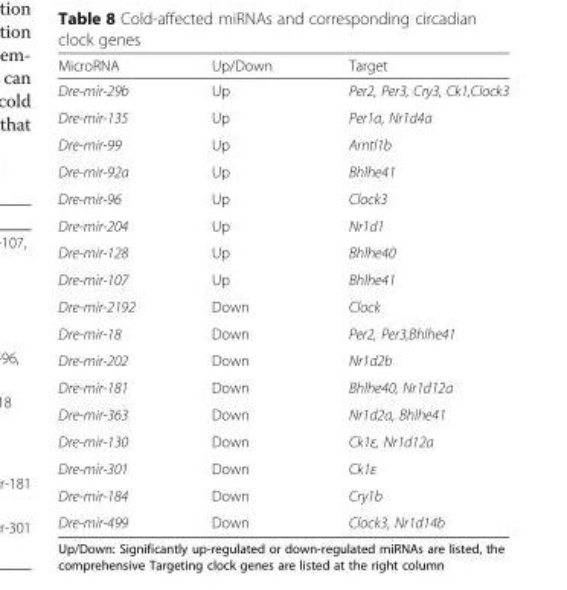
<table><thead><tr><td>MicroRNA</td><td>Up/Down</td><td>Target</td></tr></thead><tbody><tr><td>Dre-mir-29b</td><td>Up</td><td>Per2, Per3, Cry3, Ck1,Clock3</td></tr><tr><td>Dre-mir-135</td><td>Up</td><td>Per1a, Nr1d4a</td></tr><tr><td>Dre-mir-99</td><td>Up</td><td>Arntl1b</td></tr><tr><td>Dre-mir-92a</td><td>Up</td><td>Bhlhe41</td></tr><tr><td>Dre-mir-96</td><td>Up</td><td>Clock3</td></tr><tr><td>Dre-mir-204</td><td>Up</td><td>Nr1d1</td></tr><tr><td>Dre-mir-128</td><td>Up</td><td>Bhlhe40</td></tr><tr><td>Dre-mir-107</td><td>Up</td><td>Bhlhe41</td></tr><tr><td>Dre-mir-2192</td><td>Down</td><td>Clock</td></tr><tr><td>Dre-mir-18</td><td>Down</td><td>Per2, Per3,Bhlhe41</td></tr><tr><td>Dre-mir-202</td><td>Down</td><td>Nr1d2b</td></tr><tr><td>Dre-mir-181</td><td>Down</td><td>Bhlhe40, Nr1d12a</td></tr><tr><td>Dre-mir-363</td><td>Down</td><td>Nr1d2a, Bhlhe41</td></tr><tr><td>Dre-mir-130</td><td>Down</td><td>Ck1ε, Nr1d12a</td></tr><tr><td>Dre-mir-301</td><td>Down</td><td>Ck1ε</td></tr><tr><td>Dre-mir-184</td><td>Down</td><td>Cry1b</td></tr><tr><td>Dre-mir-499</td><td>Down</td><td>Clock3, Nr1d14b</td></tr></tbody></table>